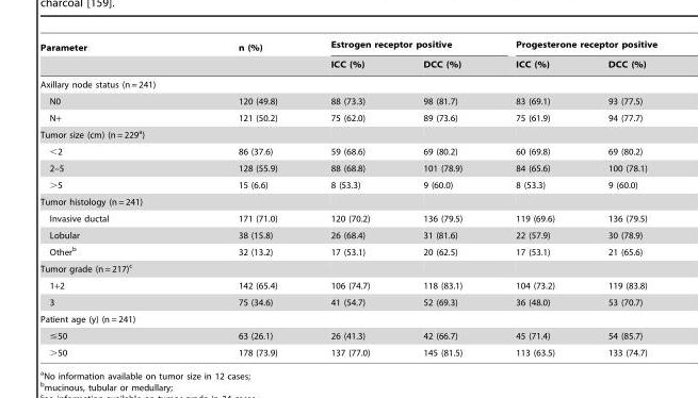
<table><thead><tr><td rowspan="2">Parameter</td><td rowspan="2">n (%)</td><td colspan="2">Estrogen receptor positive</td><td colspan="2">Progesterone receptor positive</td></tr><tr><td>ICC (%)</td><td>DCC (%)</td><td>ICC (%)</td><td>DCC (%)</td></tr></thead><tbody><tr><td colspan="6">Axillary node status (n = 241)</td></tr><tr><td>N0</td><td>120 (49.8)</td><td>88 (73.3)</td><td>98 (81.7)</td><td>83 (69.1)</td><td>93 (77.5)</td></tr><tr><td>N+</td><td>121 (50.2)</td><td>75 (62.0)</td><td>89 (73.6)</td><td>75 (61.9)</td><td>94 (77.7)</td></tr><tr><td colspan="6">Tumor size (cm) (n = 229<sup>a</sup>)</td></tr><tr><td>&lt;2</td><td>86 (37.6)</td><td>59 (68.6)</td><td>69 (80.2)</td><td>60 (69.8)</td><td>69 (80.2)</td></tr><tr><td>2–5</td><td>128 (55.9)</td><td>88 (68.8)</td><td>101 (78.9)</td><td>84 (65.6)</td><td>100 (78.1)</td></tr><tr><td>&gt;5</td><td>15 (6.6)</td><td>8 (53.3)</td><td>9 (60.0)</td><td>8 (53.3)</td><td>9 (60.0)</td></tr><tr><td colspan="6">Tumor histology (n = 241)</td></tr><tr><td>Invasive ductal</td><td>171 (71.0)</td><td>120 (70.2)</td><td>136 (79.5)</td><td>119 (69.6)</td><td>136 (79.5)</td></tr><tr><td>Lobular</td><td>38 (15.8)</td><td>26 (68.4)</td><td>31 (81.6)</td><td>22 (57.9)</td><td>30 (78.9)</td></tr><tr><td>Other<sup>b</sup></td><td>32 (13.2)</td><td>17 (53.1)</td><td>20 (62.5)</td><td>17 (53.1)</td><td>21 (65.6)</td></tr><tr><td colspan="6">Tumor grade (n = 217)<sup>c</sup></td></tr><tr><td>1+2</td><td>142 (65.4)</td><td>106 (74.7)</td><td>118 (83.1)</td><td>104 (73.2)</td><td>119 (83.8)</td></tr><tr><td>3</td><td>75 (34.6)</td><td>41 (54.7)</td><td>52 (69.3)</td><td>36 (48.0)</td><td>53 (70.7)</td></tr><tr><td colspan="6">Patient age (y) (n = 241)</td></tr><tr><td>≤50</td><td>63 (26.1)</td><td>26 (41.3)</td><td>42 (66.7)</td><td>45 (71.4)</td><td>54 (85.7)</td></tr><tr><td>&gt;50</td><td>178 (73.9)</td><td>137 (77.0)</td><td>145 (81.5)</td><td>113 (63.5)</td><td>133 (74.7)</td></tr></tbody></table>